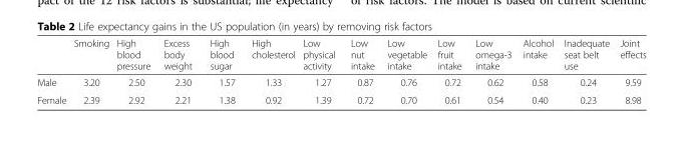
<table><thead><tr><td></td><td>Smoking</td><td>High blood pressure</td><td>Excess body weight</td><td>High blood sugar</td><td>High cholesterol</td><td>Low physical activity</td><td>Low nut intake</td><td>Low vegetable intake</td><td>Low fruit intake</td><td>Low omega-3 intake</td><td>Alcohol intake</td><td>Inadequate seat belt use</td><td>Joint effects</td></tr></thead><tbody><tr><td>Male</td><td>3.20</td><td>2.50</td><td>2.30</td><td>1.57</td><td>1.33</td><td>1.27</td><td>0.87</td><td>0.76</td><td>0.72</td><td>0.62</td><td>0.58</td><td>0.24</td><td>9.59</td></tr><tr><td>Female</td><td>2.39</td><td>2.92</td><td>2.21</td><td>1.38</td><td>0.92</td><td>1.39</td><td>0.72</td><td>0.70</td><td>0.61</td><td>0.54</td><td>0.40</td><td>0.23</td><td>8.98</td></tr></tbody></table>